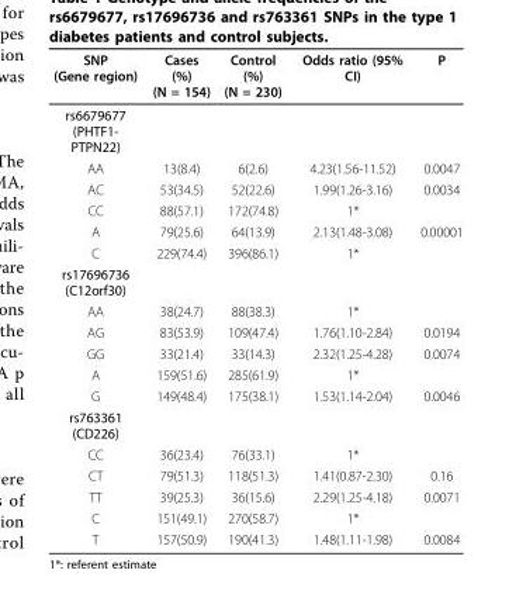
<table><thead><tr><td>SNP (Gene region)</td><td>Cases (%) (N = 154)</td><td>Control (%) (N = 230)</td><td>Odds ratio (95% CI)</td><td>P</td></tr></thead><tbody><tr><td colspan="5">rs6679677 (PHTF1- PTPN22)</td></tr><tr><td>AA</td><td>13(8.4)</td><td>6(2.6)</td><td>4.23(1.56-11.52)</td><td>0.0047</td></tr><tr><td>AC</td><td>53(34.5)</td><td>52(22.6)</td><td>1.99(1.26-3.16)</td><td>0.0034</td></tr><tr><td>CC</td><td>88(57.1)</td><td>172(74.8)</td><td>1*</td><td></td></tr><tr><td>A</td><td>79(25.6)</td><td>64(13.9)</td><td>2.13(1.48-3.08)</td><td>0.00001</td></tr><tr><td>C</td><td>229(74.4)</td><td>396(86.1)</td><td>1*</td><td></td></tr><tr><td colspan="5">rs17696736 (C12orf30)</td></tr><tr><td>AA</td><td>38(24.7)</td><td>88(38.3)</td><td>1*</td><td></td></tr><tr><td>AG</td><td>83(53.9)</td><td>109(47.4)</td><td>1.76(1.10-2.84)</td><td>0.0194</td></tr><tr><td>GG</td><td>33(21.4)</td><td>33(14.3)</td><td>2.32(1.25-4.28)</td><td>0.0074</td></tr><tr><td>A</td><td>159(51.6)</td><td>285(61.9)</td><td>1*</td><td></td></tr><tr><td>G</td><td>149(48.4)</td><td>175(38.1)</td><td>1.53(1.14-2.04)</td><td>0.0046</td></tr><tr><td colspan="5">rs763361 (CD226)</td></tr><tr><td>CC</td><td>36(23.4)</td><td>76(33.1)</td><td>1*</td><td></td></tr><tr><td>CT</td><td>79(51.3)</td><td>118(51.3)</td><td>1.41(0.87-2.30)</td><td>0.16</td></tr><tr><td>TT</td><td>39(25.3)</td><td>36(15.6)</td><td>2.29(1.25-4.18)</td><td>0.0071</td></tr><tr><td>C</td><td>151(49.1)</td><td>270(58.7)</td><td>1*</td><td></td></tr><tr><td>T</td><td>157(50.9)</td><td>190(41.3)</td><td>1.48(1.11-1.98)</td><td>0.0084</td></tr></tbody></table>